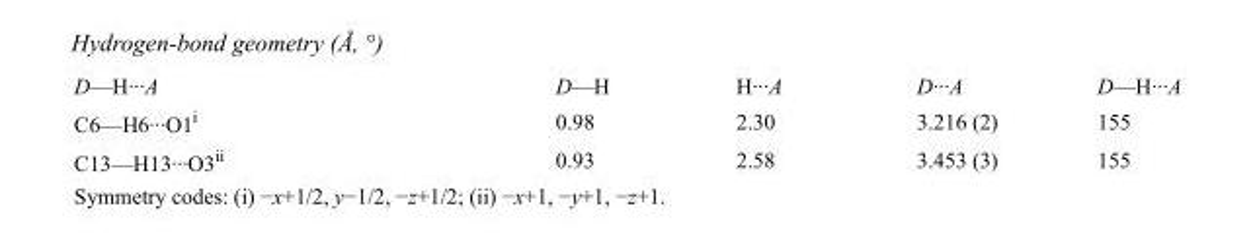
<table><tbody><tr><td>D—H···A</td><td>D—H</td><td>H···A</td><td>D···A</td><td>D—H···A</td></tr><tr><td>C6—H6···O1<sup>i</sup></td><td>0.98</td><td>2.30</td><td>3.216 (2)</td><td>155</td></tr><tr><td>C13—H13···O3<sup>ii</sup></td><td>0.93</td><td>2.58</td><td>3.453 (3)</td><td>155</td></tr></tbody></table>